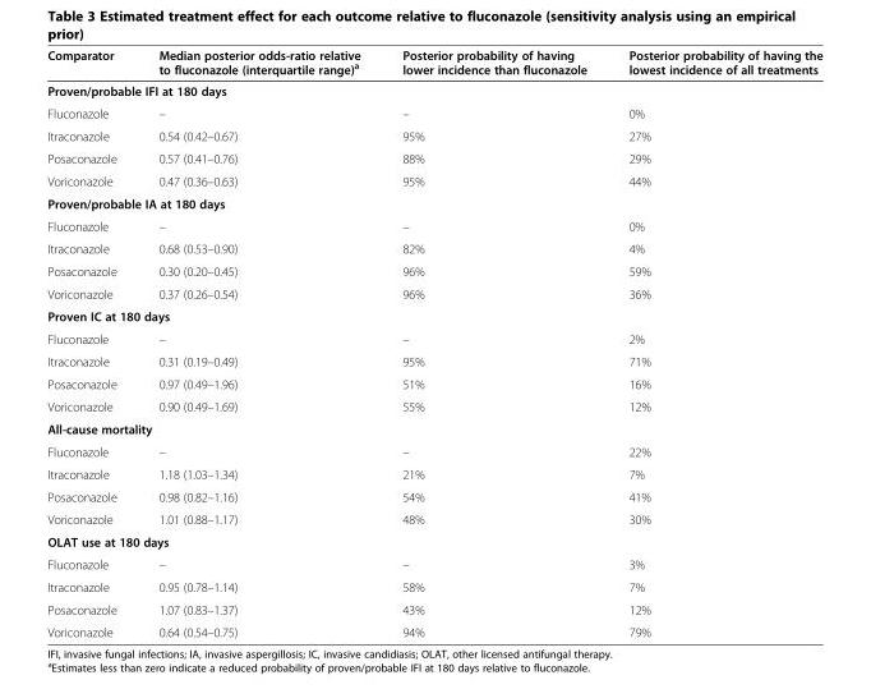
<table><thead><tr><td>Comparator</td><td>Median posterior odds-ratio relative to fluconazole (interquartile range)<sup>a</sup></td><td>Posterior probability of having lower incidence than fluconazole</td><td>Posterior probability of having the lowest incidence of all treatments</td></tr></thead><tbody><tr><td colspan="4">Proven/probable IFI at 180 days</td></tr><tr><td>Fluconazole</td><td>–</td><td>–</td><td>0%</td></tr><tr><td>Itraconazole</td><td>0.54 (0.42–0.67)</td><td>95%</td><td>27%</td></tr><tr><td>Posaconazole</td><td>0.57 (0.41–0.76)</td><td>88%</td><td>29%</td></tr><tr><td>Voriconazole</td><td>0.47 (0.36–0.63)</td><td>95%</td><td>44%</td></tr><tr><td colspan="4">Proven/probable IA at 180 days</td></tr><tr><td>Fluconazole</td><td>–</td><td>–</td><td>0%</td></tr><tr><td>Itraconazole</td><td>0.68 (0.53–0.90)</td><td>82%</td><td>4%</td></tr><tr><td>Posaconazole</td><td>0.30 (0.20–0.45)</td><td>96%</td><td>59%</td></tr><tr><td>Voriconazole</td><td>0.37 (0.26–0.54)</td><td>96%</td><td>36%</td></tr><tr><td colspan="4">Proven IC at 180 days</td></tr><tr><td>Fluconazole</td><td>–</td><td>–</td><td>2%</td></tr><tr><td>Itraconazole</td><td>0.31 (0.19–0.49)</td><td>95%</td><td>71%</td></tr><tr><td>Posaconazole</td><td>0.97 (0.49–1.96)</td><td>51%</td><td>16%</td></tr><tr><td>Voriconazole</td><td>0.90 (0.49–1.69)</td><td>55%</td><td>12%</td></tr><tr><td colspan="4">All-cause mortality</td></tr><tr><td>Fluconazole</td><td>–</td><td>–</td><td>22%</td></tr><tr><td>Itraconazole</td><td>1.18 (1.03–1.34)</td><td>21%</td><td>7%</td></tr><tr><td>Posaconazole</td><td>0.98 (0.82–1.16)</td><td>54%</td><td>41%</td></tr><tr><td>Voriconazole</td><td>1.01 (0.88–1.17)</td><td>48%</td><td>30%</td></tr><tr><td colspan="4">OLAT use at 180 days</td></tr><tr><td>Fluconazole</td><td>–</td><td>–</td><td>3%</td></tr><tr><td>Itraconazole</td><td>0.95 (0.78–1.14)</td><td>58%</td><td>7%</td></tr><tr><td>Posaconazole</td><td>1.07 (0.83–1.37)</td><td>43%</td><td>12%</td></tr><tr><td>Voriconazole</td><td>0.64 (0.54–0.75)</td><td>94%</td><td>79%</td></tr></tbody></table>